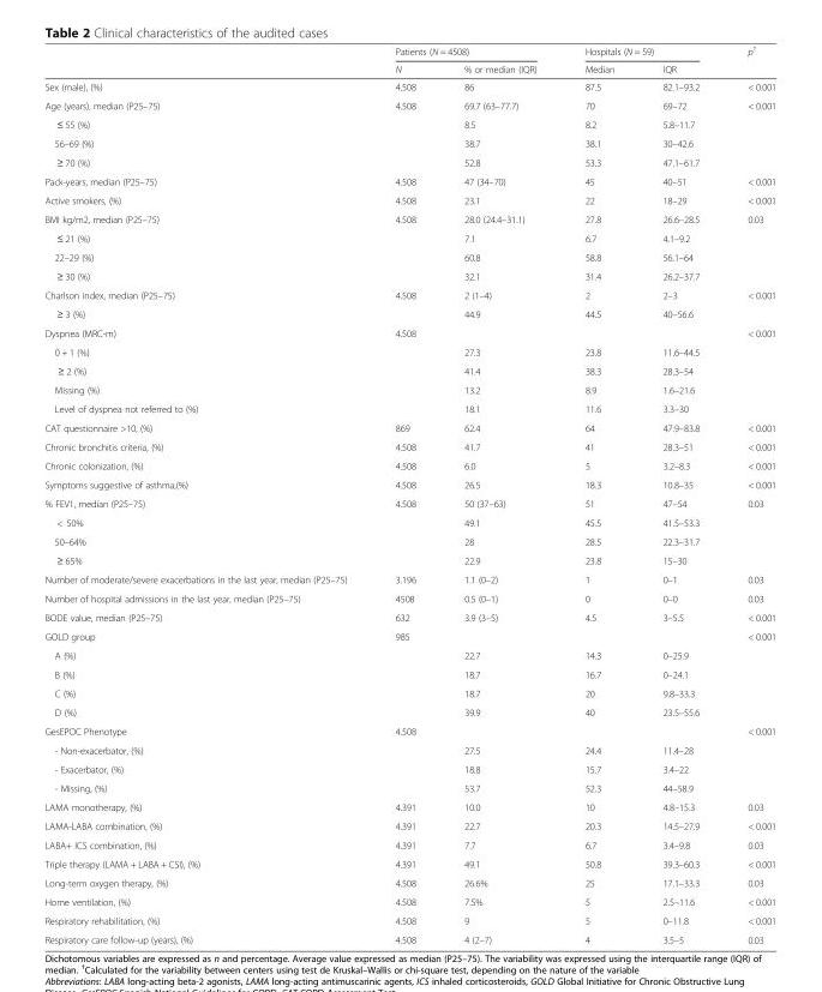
<table><thead><tr><td rowspan="2"></td><td colspan="2">Patients (N = 4508)</td><td colspan="2">Hospitals (N = 59)</td><td rowspan="2">p<sup>†</sup></td></tr><tr><td>N</td><td>% or median (IQR)</td><td>Median</td><td>IQR</td></tr></thead><tbody><tr><td>Sex (male), (%)</td><td>4.508</td><td>86</td><td>87.5</td><td>82.1–93.2</td><td>&lt; 0.001</td></tr><tr><td>Age (years), median (P25–75)</td><td>4.508</td><td>69.7 (63–77.7)</td><td>70</td><td>69–72</td><td rowspan="4">&lt; 0.001</td></tr><tr><td>≤ 55 (%)</td><td></td><td>8.5</td><td>8.2</td><td>5.8–11.7</td></tr><tr><td>56–69 (%)</td><td></td><td>38.7</td><td>38.1</td><td>30–42.6</td></tr><tr><td>≥ 70 (%)</td><td></td><td>52.8</td><td>53.3</td><td>47.1–61.7</td></tr><tr><td>Pack-years, median (P25–75)</td><td>4.508</td><td>47 (34–70)</td><td>45</td><td>40–51</td><td>&lt; 0.001</td></tr><tr><td>Active smokers, (%)</td><td>4.508</td><td>23.1</td><td>22</td><td>18–29</td><td>&lt; 0.001</td></tr><tr><td>BMI kg/m2, median (P25–75)</td><td>4.508</td><td>28.0 (24.4–31.1)</td><td>27.8</td><td>26.6–28.5</td><td rowspan="4">0.03</td></tr><tr><td>≤ 21 (%)</td><td></td><td>7.1</td><td>6.7</td><td>4.1–9.2</td></tr><tr><td>22–29 (%)</td><td></td><td>60.8</td><td>58.8</td><td>56.1–64</td></tr><tr><td>≥ 30 (%)</td><td></td><td>32.1</td><td>31.4</td><td>26.2–37.7</td></tr><tr><td>Charlson index, median (P25–75)</td><td>4.508</td><td>2 (1–4)</td><td>2</td><td>2–3</td><td rowspan="2">&lt; 0.001</td></tr><tr><td>≥ 3 (%)</td><td></td><td>44.9</td><td>44.5</td><td>40–56.6</td></tr><tr><td>Dyspnea (MRC-m)</td><td>4.508</td><td></td><td></td><td></td><td rowspan="5">&lt; 0.001</td></tr><tr><td>0 + 1 (%)</td><td></td><td>27.3</td><td>23.8</td><td>11.6–44.5</td></tr><tr><td>≥ 2 (%)</td><td></td><td>41.4</td><td>38.3</td><td>28.3–54</td></tr><tr><td>Missing (%)</td><td></td><td>13.2</td><td>8.9</td><td>1.6–21.6</td></tr><tr><td>Level of dyspnea not referred to (%)</td><td></td><td>18.1</td><td>11.6</td><td>3.3–30</td></tr><tr><td>CAT questionnaire &gt;10, (%)</td><td>869</td><td>62.4</td><td>64</td><td>47.9–83.8</td><td>&lt; 0.001</td></tr><tr><td>Chronic bronchitis criteria, (%)</td><td>4.508</td><td>41.7</td><td>41</td><td>28.3–51</td><td>&lt; 0.001</td></tr><tr><td>Chronic colonization, (%)</td><td>4.508</td><td>6.0</td><td>5</td><td>3.2–8.3</td><td>&lt; 0.001</td></tr><tr><td>Symptoms suggestive of asthma,(%)</td><td>4.508</td><td>26.5</td><td>18.3</td><td>10.8–35</td><td>&lt; 0.001</td></tr><tr><td>% FEV1, median (P25–75)</td><td>4.508</td><td>50 (37–63)</td><td>51</td><td>47–54</td><td rowspan="4">0.03</td></tr><tr><td>&lt; 50%</td><td></td><td>49.1</td><td>45.5</td><td>41.5–53.3</td></tr><tr><td>50–64%</td><td></td><td>28</td><td>28.5</td><td>22.3–31.7</td></tr><tr><td>≥ 65%</td><td></td><td>22.9</td><td>23.8</td><td>15–30</td></tr><tr><td>Number of moderate/severe exacerbations in the last year, median (P25–75)</td><td>3.196</td><td>1.1 (0–2)</td><td>1</td><td>0–1</td><td>0.03</td></tr><tr><td>Number of hospital admissions in the last year, median (P25–75)</td><td>4508</td><td>0.5 (0–1)</td><td>0</td><td>0–0</td><td>0.03</td></tr><tr><td>BODE value, median (P25–75)</td><td>632</td><td>3.9 (3–5)</td><td>4.5</td><td>3–5.5</td><td>&lt; 0.001</td></tr><tr><td>GOLD group</td><td>985</td><td></td><td></td><td></td><td rowspan="5">&lt; 0.001</td></tr><tr><td>A (%)</td><td></td><td>22.7</td><td>14.3</td><td>0–25.9</td></tr><tr><td>B (%)</td><td></td><td>18.7</td><td>16.7</td><td>0–24.1</td></tr><tr><td>C (%)</td><td></td><td>18.7</td><td>20</td><td>9.8–33.3</td></tr><tr><td>D (%)</td><td></td><td>39.9</td><td>40</td><td>23.5–55.6</td></tr><tr><td>GesEPOC Phenotype</td><td>4.508</td><td></td><td></td><td></td><td rowspan="4">&lt; 0.001</td></tr><tr><td>- Non-exacerbator, (%)</td><td></td><td>27.5</td><td>24.4</td><td>11.4–28</td></tr><tr><td>- Exacerbator, (%)</td><td></td><td>18.8</td><td>15.7</td><td>3.4–22</td></tr><tr><td>- Missing, (%)</td><td></td><td>53.7</td><td>52.3</td><td>44–58.9</td></tr><tr><td>LAMA monotherapy, (%)</td><td>4.391</td><td>10.0</td><td>10</td><td>4.8–15.3</td><td>0.03</td></tr><tr><td>LAMA-LABA combination, (%)</td><td>4.391</td><td>22.7</td><td>20.3</td><td>14.5–27.9</td><td>&lt; 0.001</td></tr><tr><td>LABA+ ICS combination, (%)</td><td>4.391</td><td>7.7</td><td>6.7</td><td>3.4–9.8</td><td>0.03</td></tr><tr><td>Triple therapy (LAMA + LABA + CSI), (%)</td><td>4.391</td><td>49.1</td><td>50.8</td><td>39.3–60.3</td><td>&lt; 0.001</td></tr><tr><td>Long-term oxygen therapy, (%)</td><td>4.508</td><td>26.6%</td><td>25</td><td>17.1–33.3</td><td>0.03</td></tr><tr><td>Home ventilation, (%)</td><td>4.508</td><td>7.5%</td><td>5</td><td>2.5–11.6</td><td>&lt; 0.001</td></tr><tr><td>Respiratory rehabilitation, (%)</td><td>4.508</td><td>9</td><td>5</td><td>0–11.8</td><td>&lt; 0.001</td></tr><tr><td>Respiratory care follow-up (years), (%)</td><td>4.508</td><td>4 (2–7)</td><td>4</td><td>3.5–5</td><td>0.03</td></tr></tbody></table>